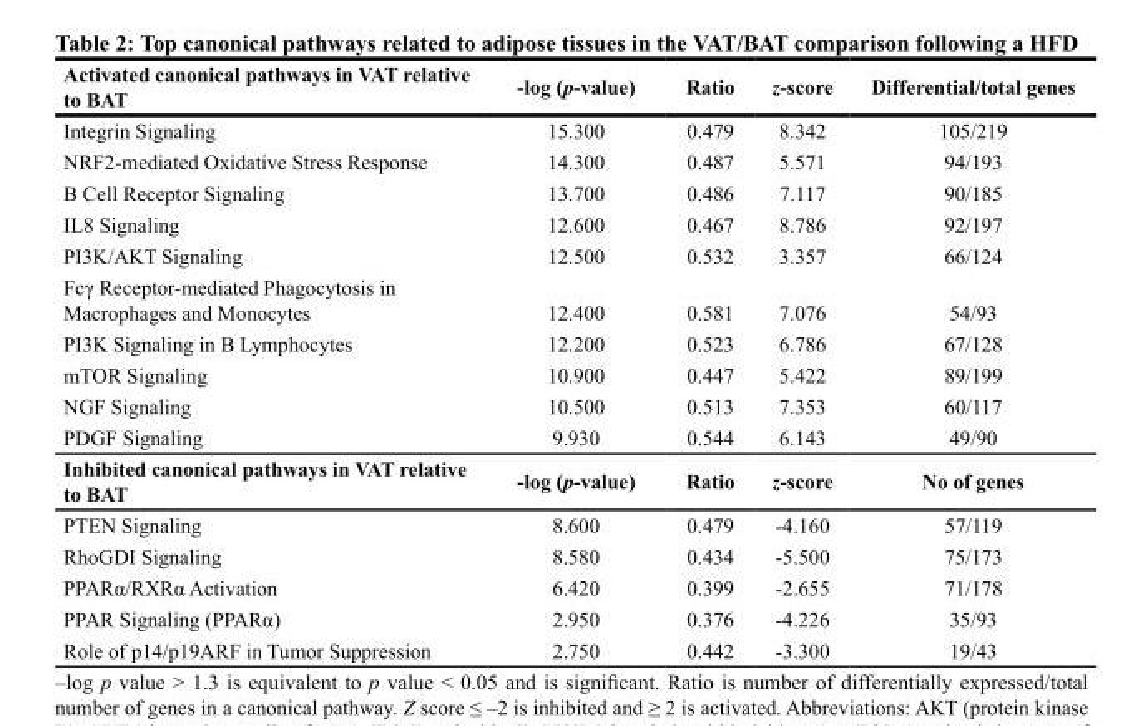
<table><thead><tr><td>Activated canonical pathways in VAT relative to BAT</td><td>-log (p-value)</td><td>Ratio</td><td>z-score</td><td>Differential/total genes</td></tr></thead><tbody><tr><td>Integrin Signaling</td><td>15.300</td><td>0.479</td><td>8.342</td><td>105/219</td></tr><tr><td>NRF2-mediated Oxidative Stress Response</td><td>14.300</td><td>0.487</td><td>5.571</td><td>94/193</td></tr><tr><td>B Cell Receptor Signaling</td><td>13.700</td><td>0.486</td><td>7.117</td><td>90/185</td></tr><tr><td>IL8 Signaling</td><td>12.600</td><td>0.467</td><td>8.786</td><td>92/197</td></tr><tr><td>PI3K/AKT Signaling</td><td>12.500</td><td>0.532</td><td>3.357</td><td>66/124</td></tr><tr><td>Fcγ Receptor-mediated Phagocytosis in Macrophages and Monocytes</td><td>12.400</td><td>0.581</td><td>7.076</td><td>54/93</td></tr><tr><td>PI3K Signaling in B Lymphocytes</td><td>12.200</td><td>0.523</td><td>6.786</td><td>67/128</td></tr><tr><td>mTOR Signaling</td><td>10.900</td><td>0.447</td><td>5.422</td><td>89/199</td></tr><tr><td>NGF Signaling</td><td>10.500</td><td>0.513</td><td>7.353</td><td>60/117</td></tr><tr><td>PDGF Signaling</td><td>9.930</td><td>0.544</td><td>6.143</td><td>49/90</td></tr><tr><td>Inhibited canonical pathways in VAT relative to BAT</td><td>-log (p-value)</td><td>Ratio</td><td>z-score</td><td>No of genes</td></tr><tr><td>PTEN Signaling</td><td>8.600</td><td>0.479</td><td>-4.160</td><td>57/119</td></tr><tr><td>RhoGDI Signaling</td><td>8.580</td><td>0.434</td><td>-5.500</td><td>75/173</td></tr><tr><td>PPARα/RXRα Activation</td><td>6.420</td><td>0.399</td><td>-2.655</td><td>71/178</td></tr><tr><td>PPAR Signaling (PPARα)</td><td>2.950</td><td>0.376</td><td>-4.226</td><td>35/93</td></tr><tr><td>Role of p14/p19ARF in Tumor Suppression</td><td>2.750</td><td>0.442</td><td>-3.300</td><td>19/43</td></tr></tbody></table>